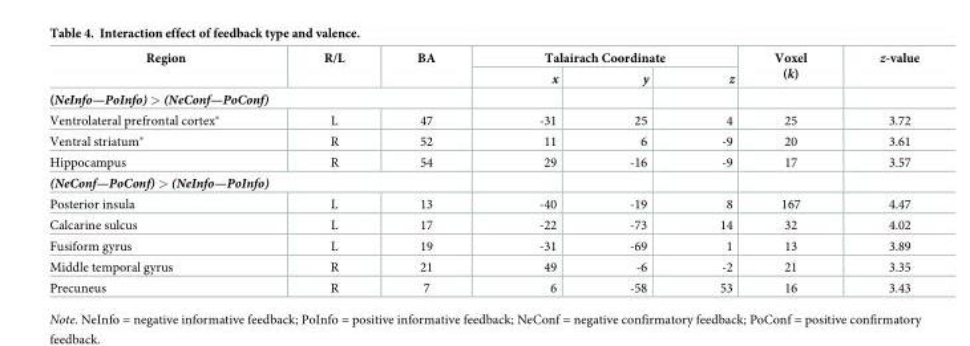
<table><thead><tr><td rowspan="2">Region</td><td rowspan="2">R/L</td><td rowspan="2">BA</td><td colspan="3">Talairach Coordinate</td><td rowspan="2">Voxel (k)</td><td rowspan="2">z-value</td></tr><tr><td>x</td><td>y</td><td>z</td></tr></thead><tbody><tr><td colspan="8">(NeInfo—PoInfo) &gt; (NeConf—PoConf)</td></tr><tr><td>Ventrolateral prefrontal cortex*</td><td>L</td><td>47</td><td>-31</td><td>25</td><td>4</td><td>25</td><td>3.72</td></tr><tr><td>Ventral striatum*</td><td>R</td><td>52</td><td>11</td><td>6</td><td>-9</td><td>20</td><td>3.61</td></tr><tr><td>Hippocampus</td><td>R</td><td>54</td><td>29</td><td>-16</td><td>-9</td><td>17</td><td>3.57</td></tr><tr><td colspan="8">(NeConf—PoConf) &gt; (NeInfo—PoInfo)</td></tr><tr><td>Posterior insula</td><td>L</td><td>13</td><td>-40</td><td>-19</td><td>8</td><td>167</td><td>4.47</td></tr><tr><td>Calcarine sulcus</td><td>L</td><td>17</td><td>-22</td><td>-73</td><td>14</td><td>32</td><td>4.02</td></tr><tr><td>Fusiform gyrus</td><td>L</td><td>19</td><td>-31</td><td>-69</td><td>1</td><td>13</td><td>3.89</td></tr><tr><td>Middle temporal gyrus</td><td>R</td><td>21</td><td>49</td><td>-6</td><td>-2</td><td>21</td><td>3.35</td></tr><tr><td>Precuneus</td><td>R</td><td>7</td><td>6</td><td>-58</td><td>53</td><td>16</td><td>3.43</td></tr></tbody></table>